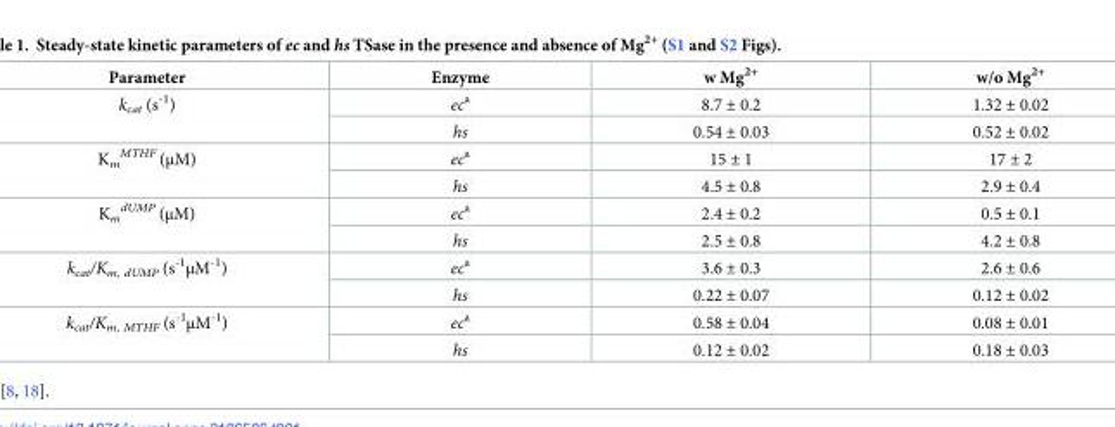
<table><thead><tr><td>Parameter</td><td>Enzyme</td><td>w Mg<sup>2+</sup></td><td>w/o Mg<sup>2+</sup></td></tr></thead><tbody><tr><td rowspan="2">k<sub>cat</sub> (s<sup>-1</sup>)</td><td>ec<sup>a</sup></td><td>8.7 ± 0.2</td><td>1.32 ± 0.02</td></tr><tr><td>hs</td><td>0.54 ± 0.03</td><td>0.52 ± 0.02</td></tr><tr><td rowspan="2">K<sub>m</sub> <sup>MTHF</sup> (μM)</td><td>ec<sup>a</sup></td><td>15 ± 1</td><td>17 ± 2</td></tr><tr><td>hs</td><td>4.5 ± 0.8</td><td>2.9 ± 0.4</td></tr><tr><td rowspan="2">K<sub>m</sub> <sup>dUMP</sup> (μM)</td><td>ec<sup>a</sup></td><td>2.4 ± 0.2</td><td>0.5 ± 0.1</td></tr><tr><td>hs</td><td>2.5 ± 0.8</td><td>4.2 ± 0.8</td></tr><tr><td rowspan="2">k<sub>cat</sub>/K<sub>m, dUMP</sub> (s<sup>-1</sup>μM<sup>-1</sup>)</td><td>ec<sup>a</sup></td><td>3.6 ± 0.3</td><td>2.6 ± 0.6</td></tr><tr><td>hs</td><td>0.22 ± 0.07</td><td>0.12 ± 0.02</td></tr><tr><td rowspan="2">k<sub>cat</sub>/K<sub>m, MTHF</sub> (s<sup>-1</sup>μM<sup>-1</sup>)</td><td>ec<sup>a</sup></td><td>0.58 ± 0.04</td><td>0.08 ± 0.01</td></tr><tr><td>hs</td><td>0.12 ± 0.02</td><td>0.18 ± 0.03</td></tr></tbody></table>